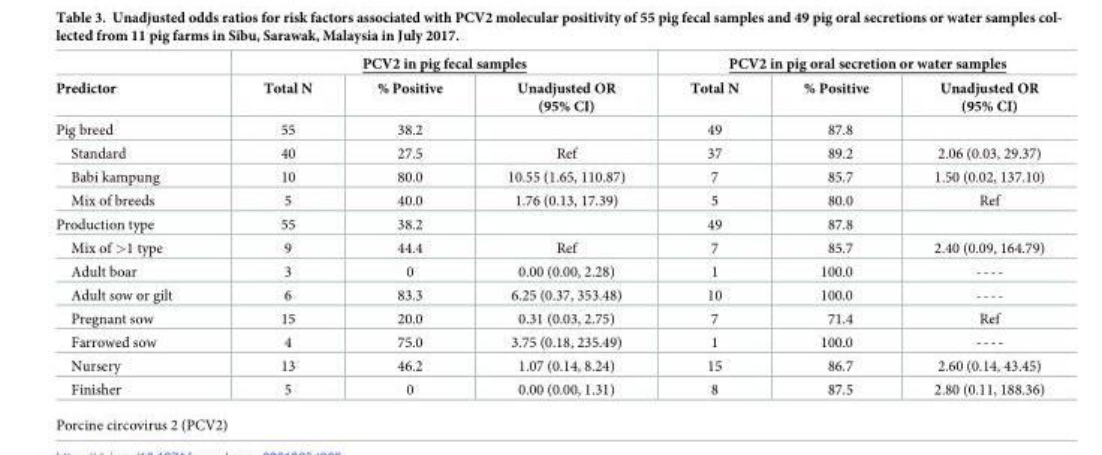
<table><thead><tr><td rowspan="2">Predictor</td><td colspan="3">PCV2 in pig fecal samples</td><td colspan="3">PCV2 in pig oral secretion or water samples</td></tr><tr><td>Total N</td><td>% Positive</td><td>Unadjusted OR (95% CI)</td><td>Total N</td><td>% Positive</td><td>Unadjusted OR (95% CI)</td></tr></thead><tbody><tr><td>Pig breed</td><td>55</td><td>38.2</td><td></td><td>49</td><td>87.8</td><td></td></tr><tr><td>Standard</td><td>40</td><td>27.5</td><td>Ref</td><td>37</td><td>89.2</td><td>2.06 (0.03, 29.37)</td></tr><tr><td>Babi kampung</td><td>10</td><td>80.0</td><td>10.55 (1.65, 110.87)</td><td>7</td><td>85.7</td><td>1.50 (0.02, 137.10)</td></tr><tr><td>Mix of breeds</td><td>5</td><td>40.0</td><td>1.76 (0.13, 17.39)</td><td>5</td><td>80.0</td><td>Ref</td></tr><tr><td>Production type</td><td>55</td><td>38.2</td><td></td><td>49</td><td>87.8</td><td></td></tr><tr><td>Mix of &gt;1 type</td><td>9</td><td>44.4</td><td>Ref</td><td>7</td><td>85.7</td><td>2.40 (0.09, 164.79)</td></tr><tr><td>Adult boar</td><td>3</td><td>0</td><td>0.00 (0.00, 2.28)</td><td>1</td><td>100.0</td><td>----</td></tr><tr><td>Adult sow or gilt</td><td>6</td><td>83.3</td><td>6.25 (0.37, 353.48)</td><td>10</td><td>100.0</td><td>----</td></tr><tr><td>Pregnant sow</td><td>15</td><td>20.0</td><td>0.31 (0.03, 2.75)</td><td>7</td><td>71.4</td><td>Ref</td></tr><tr><td>Farrowed sow</td><td>4</td><td>75.0</td><td>3.75 (0.18, 235.49)</td><td>1</td><td>100.0</td><td>----</td></tr><tr><td>Nursery</td><td>13</td><td>46.2</td><td>1.07 (0.14, 8.24)</td><td>15</td><td>86.7</td><td>2.60 (0.14, 43.45)</td></tr><tr><td>Finisher</td><td>5</td><td>0</td><td>0.00 (0.00, 1.31)</td><td>8</td><td>87.5</td><td>2.80 (0.11, 188.36)</td></tr></tbody></table>